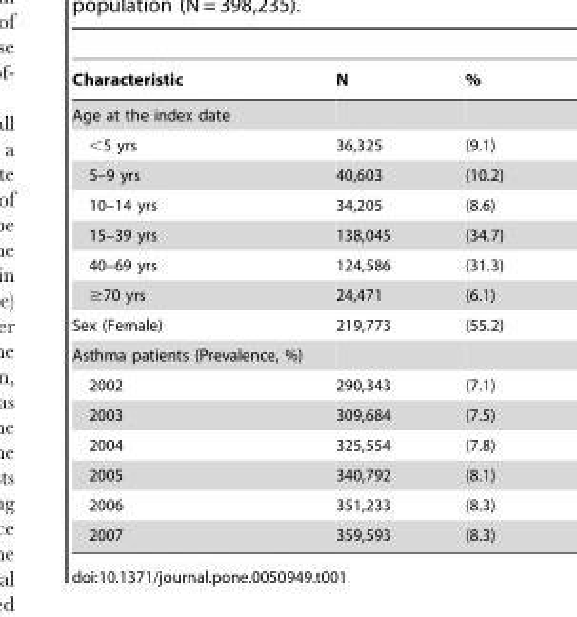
<table><thead><tr><td>Characteristic</td><td>N</td><td>%</td></tr></thead><tbody><tr><td colspan="3">Age at the index date</td></tr><tr><td>&lt;5 yrs</td><td>36,325</td><td>(9.1)</td></tr><tr><td>5–9 yrs</td><td>40,603</td><td>(10.2)</td></tr><tr><td>10–14 yrs</td><td>34,205</td><td>(8.6)</td></tr><tr><td>15–39 yrs</td><td>138,045</td><td>(34.7)</td></tr><tr><td>40–69 yrs</td><td>124,586</td><td>(31.3)</td></tr><tr><td>≥70 yrs</td><td>24,471</td><td>(6.1)</td></tr><tr><td>Sex (Female)</td><td>219,773</td><td>(55.2)</td></tr><tr><td colspan="3">Asthma patients (Prevalence, %)</td></tr><tr><td>2002</td><td>290,343</td><td>(7.1)</td></tr><tr><td>2003</td><td>309,684</td><td>(7.5)</td></tr><tr><td>2004</td><td>325,554</td><td>(7.8)</td></tr><tr><td>2005</td><td>340,792</td><td>(8.1)</td></tr><tr><td>2006</td><td>351,233</td><td>(8.3)</td></tr><tr><td>2007</td><td>359,593</td><td>(8.3)</td></tr></tbody></table>